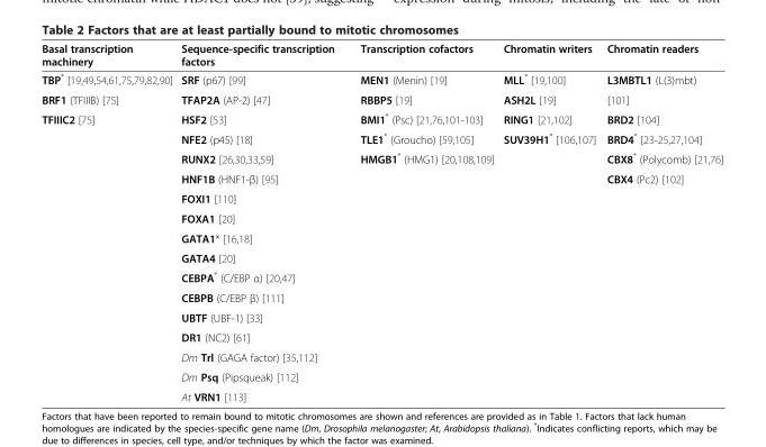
<table><thead><tr><td>Basal transcription machinery</td><td>Sequence-specific transcription factors</td><td>Transcription cofactors</td><td>Chromatin writers</td><td>Chromatin readers</td></tr></thead><tbody><tr><td>TBP* [19,49,54,61,75,79,82,90]</td><td>SRF (p67) [99]</td><td>MEN1 (Menin) [19]</td><td>MLL* [19,100]</td><td>L3MBTL1 (L(3)mbt)</td></tr><tr><td>BRF1 (TFIIIB) [75]</td><td>TFAP2A (AP-2) [47]</td><td>RBBP5 [19]</td><td>ASH2L [19]</td><td>[101]</td></tr><tr><td rowspan="15">TFIIIC2 [75]</td><td>HSF2 [53]</td><td>BMI1* (Psc) [21,76,101-103]</td><td>RING1 [21,102]</td><td>BRD2 [104]</td></tr><tr><td>NFE2 (p45) [18]</td><td>TLE1* (Groucho) [59,105]</td><td>SUV39H1* [106,107]</td><td>BRD4* [23-25,27,104]</td></tr><tr><td>RUNX2 [26,30,33,59]</td><td>HMGB1* (HMG1) [20,108,109]</td><td rowspan="13"></td><td>CBX8* (Polycomb) [21,76]</td></tr><tr><td>HNF1B (HNF1-β) [95]</td><td rowspan="12"></td><td>CBX4 (Pc2) [102]</td></tr><tr><td>FOXI1 [110]</td><td rowspan="11"></td></tr><tr><td>FOXA1 [20]</td></tr><tr><td>GATA1* [16,18]</td></tr><tr><td>GATA4 [20]</td></tr><tr><td>CEBPA* (C/EBP α) [20,47]</td></tr><tr><td>CEBPB (C/EBP β) [111]</td></tr><tr><td>UBTF (UBF-1) [33]</td></tr><tr><td>DR1 (NC2) [61]</td></tr><tr><td>Dm Trl (GAGA factor) [35,112]</td></tr><tr><td>Dm Psq (Pipsqueak) [112]</td></tr><tr><td>At VRN1 [113]</td></tr></tbody></table>